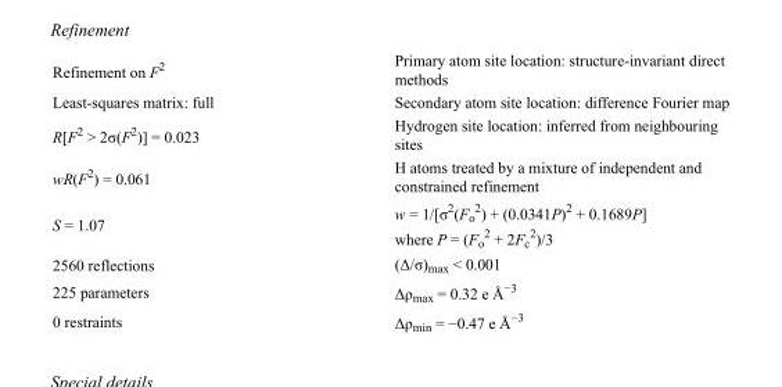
<table><tbody><tr><td>Refinement on F<sup>2</sup></td><td>Primary atom site location: structure-invariant direct methods</td></tr><tr><td>Least-squares matrix: full</td><td>Secondary atom site location: difference Fourier map</td></tr><tr><td>R[F<sup>2</sup> &gt; 2σ(F<sup>2</sup>)] = 0.023</td><td>Hydrogen site location: inferred from neighbouring sites</td></tr><tr><td>wR(F<sup>2</sup>) = 0.061</td><td>H atoms treated by a mixture of independent and constrained refinement</td></tr><tr><td>S = 1.07</td><td>w = 1/[σ<sup>2</sup>(F<sub>o</sub> <sup>2</sup>) + (0.0341P)<sup>2</sup> + 0.1689P] where P = (F<sub>o</sub> <sup>2</sup> + 2F<sub>c</sub> <sup>2</sup>)/3</td></tr><tr><td>2560 reflections</td><td>(Δ/σ)<sub>max</sub> &lt; 0.001</td></tr><tr><td>225 parameters</td><td>Δρ<sub>max</sub> = 0.32 e Å<sup>−3</sup></td></tr><tr><td>0 restraints</td><td>Δρ<sub>min</sub> = −0.47 e Å<sup>−3</sup></td></tr></tbody></table>